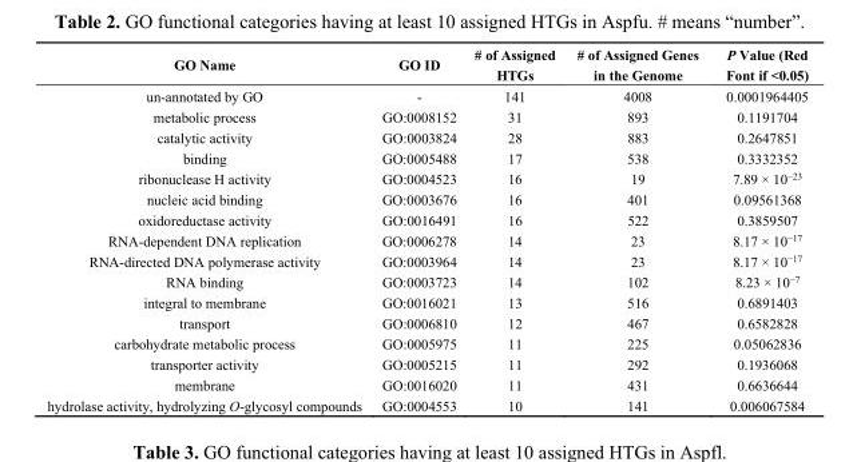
<table><thead><tr><td>GO Name</td><td>GO ID</td><td># of Assigned HTGs</td><td># of Assigned Genes in the Genome</td><td>P Value (Red Font if &lt;0.05)</td></tr></thead><tbody><tr><td>un-annotated by GO</td><td>-</td><td>141</td><td>4008</td><td>0.0001964405</td></tr><tr><td>metabolic process</td><td>GO:0008152</td><td>31</td><td>893</td><td>0.1191704</td></tr><tr><td>catalytic activity</td><td>GO:0003824</td><td>28</td><td>883</td><td>0.2647851</td></tr><tr><td>binding</td><td>GO:0005488</td><td>17</td><td>538</td><td>0.3332352</td></tr><tr><td>ribonuclease H activity</td><td>GO:0004523</td><td>16</td><td>19</td><td>7.89 × 10<sup>−23</sup></td></tr><tr><td>nucleic acid binding</td><td>GO:0003676</td><td>16</td><td>401</td><td>0.09561368</td></tr><tr><td>oxidoreductase activity</td><td>GO:0016491</td><td>16</td><td>522</td><td>0.3859507</td></tr><tr><td>RNA-dependent DNA replication</td><td>GO:0006278</td><td>14</td><td>23</td><td>8.17 × 10<sup>−17</sup></td></tr><tr><td>RNA-directed DNA polymerase activity</td><td>GO:0003964</td><td>14</td><td>23</td><td>8.17 × 10<sup>−17</sup></td></tr><tr><td>RNA binding</td><td>GO:0003723</td><td>14</td><td>102</td><td>8.23 × 10<sup>−7</sup></td></tr><tr><td>integral to membrane</td><td>GO:0016021</td><td>13</td><td>516</td><td>0.6891403</td></tr><tr><td>transport</td><td>GO:0006810</td><td>12</td><td>467</td><td>0.6582828</td></tr><tr><td>carbohydrate metabolic process</td><td>GO:0005975</td><td>11</td><td>225</td><td>0.05062836</td></tr><tr><td>transporter activity</td><td>GO:0005215</td><td>11</td><td>292</td><td>0.1936068</td></tr><tr><td>membrane</td><td>GO:0016020</td><td>11</td><td>431</td><td>0.6636644</td></tr><tr><td>hydrolase activity, hydrolyzing O-glycosyl compounds</td><td>GO:0004553</td><td>10</td><td>141</td><td>0.006067584</td></tr></tbody></table>